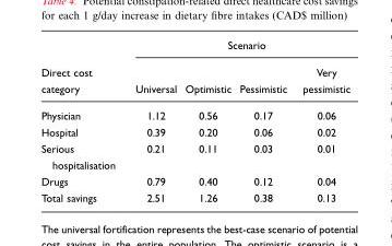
<table><thead><tr><td rowspan="2">Direct cost category</td><td colspan="4">Scenario</td></tr><tr><td>Universal</td><td>Optimistic</td><td>Pessimistic</td><td>Very pessimistic</td></tr></thead><tbody><tr><td>Physician</td><td>1.12</td><td>0.56</td><td>0.17</td><td>0.06</td></tr><tr><td>Hospital</td><td>0.39</td><td>0.20</td><td>0.06</td><td>0.02</td></tr><tr><td>Serious hospitalisation</td><td>0.21</td><td>0.11</td><td>0.03</td><td>0.01</td></tr><tr><td>Drugs</td><td>0.79</td><td>0.40</td><td>0.12</td><td>0.04</td></tr><tr><td>Total savings</td><td>2.51</td><td>1.26</td><td>0.38</td><td>0.13</td></tr></tbody></table>